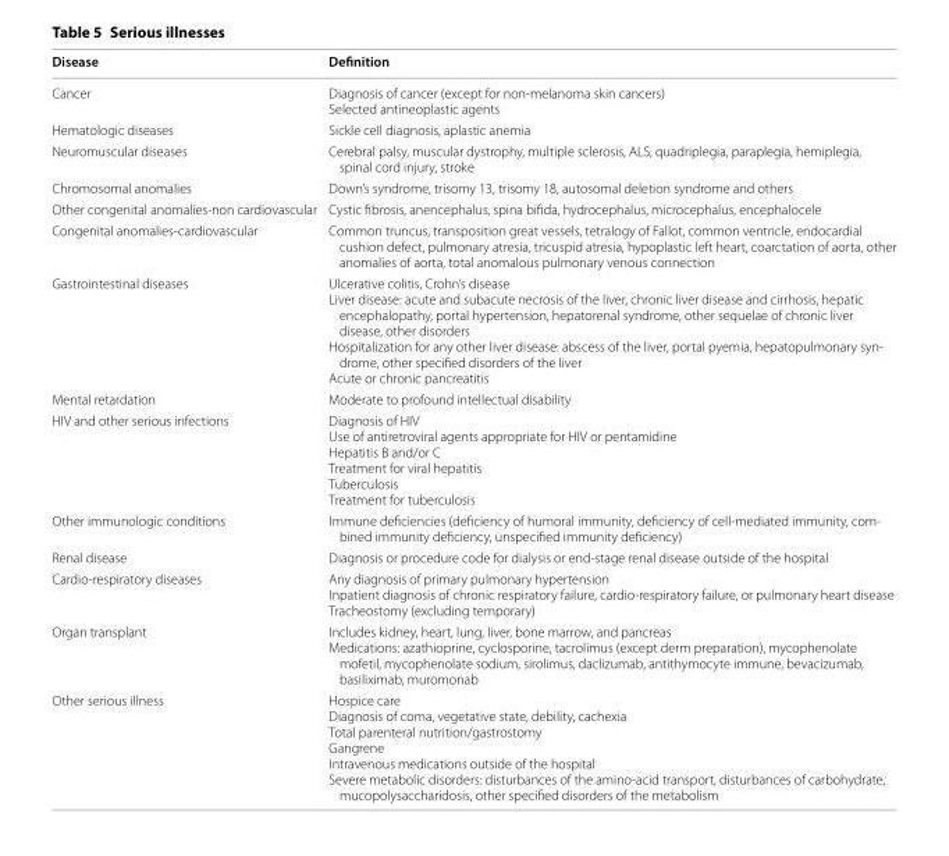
<table><thead><tr><td>Disease</td><td>Definition</td></tr></thead><tbody><tr><td>Cancer</td><td>Diagnosis of cancer (except for non-melanoma skin cancers) Selected antineoplastic agents</td></tr><tr><td>Hematologic diseases</td><td>Sickle cell diagnosis, aplastic anemia</td></tr><tr><td>Neuromuscular diseases</td><td>Cerebral palsy, muscular dystrophy, multiple sclerosis, ALS, quadriplegia, paraplegia, hemiplegia, spinal cord injury, stroke</td></tr><tr><td>Chromosomal anomalies</td><td>Down’s syndrome, trisomy 13, trisomy 18, autosomal deletion syndrome and others</td></tr><tr><td>Other congenital anomalies-non cardiovascular</td><td>Cystic fibrosis, anencephalus, spina bifida, hydrocephalus, microcephalus, encephalocele</td></tr><tr><td>Congenital anomalies-cardiovascular</td><td>Common truncus, transposition great vessels, tetralogy of Fallot, common ventricle, endocardial cushion defect, pulmonary atresia, tricuspid atresia, hypoplastic left heart, coarctation of aorta, other anomalies of aorta, total anomalous pulmonary venous connection</td></tr><tr><td>Gastrointestinal diseases</td><td>Ulcerative colitis, Crohn’s disease Liver disease: acute and subacute necrosis of the liver, chronic liver disease and cirrhosis, hepatic encephalopathy, portal hypertension, hepatorenal syndrome, other sequelae of chronic liver disease, other disorders Hospitalization for any other liver disease: abscess of the liver, portal pyemia, hepatopulmonary syn- drome, other specified disorders of the liver Acute or chronic pancreatitis</td></tr><tr><td>Mental retardation</td><td>Moderate to profound intellectual disability</td></tr><tr><td>HIV and other serious infections</td><td>Diagnosis of HIV Use of antiretroviral agents appropriate for HIV or pentamidine Hepatitis B and/or C Treatment for viral hepatitis Tuberculosis Treatment for tuberculosis</td></tr><tr><td>Other immunologic conditions</td><td>Immune deficiencies (deficiency of humoral immunity, deficiency of cell-mediated immunity, com- bined immunity deficiency, unspecified immunity deficiency)</td></tr><tr><td>Renal disease</td><td>Diagnosis or procedure code for dialysis or end-stage renal disease outside of the hospital</td></tr><tr><td>Cardio-respiratory diseases</td><td>Any diagnosis of primary pulmonary hypertension Inpatient diagnosis of chronic respiratory failure, cardio-respiratory failure, or pulmonary heart disease Tracheostomy (excluding temporary)</td></tr><tr><td>Organ transplant</td><td>Includes kidney, heart, lung, liver, bone marrow, and pancreas Medications: azathioprine, cyclosporine, tacrolimus (except derm preparation), mycophenolate mofetil, mycophenolate sodium, sirolimus, daclizumab, antithymocyte immune, bevacizumab, basiliximab, muromonab</td></tr><tr><td>Other serious illness</td><td>Hospice care Diagnosis of coma, vegetative state, debility, cachexia Total parenteral nutrition/gastrostomy Gangrene Intravenous medications outside of the hospital Severe metabolic disorders: disturbances of the amino-acid transport, disturbances of carbohydrate, mucopolysaccharidosis, other specified disorders of the metabolism</td></tr></tbody></table>